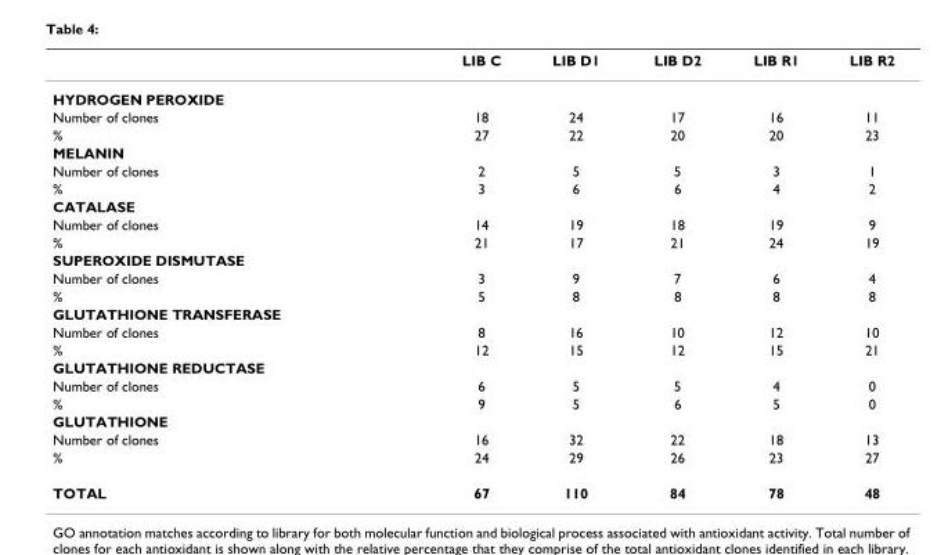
<table><thead><tr><td></td><td>LIB C</td><td>LIB D1</td><td>LIB D2</td><td>LIB R1</td><td>LIB R2</td></tr></thead><tbody><tr><td colspan="6">HYDROGEN PEROXIDE</td></tr><tr><td>Number of clones</td><td>18</td><td>24</td><td>17</td><td>16</td><td>11</td></tr><tr><td>%</td><td>27</td><td>22</td><td>20</td><td>20</td><td>23</td></tr><tr><td colspan="6">MELANIN</td></tr><tr><td>Number of clones</td><td>2</td><td>5</td><td>5</td><td>3</td><td>1</td></tr><tr><td>%</td><td>3</td><td>6</td><td>6</td><td>4</td><td>2</td></tr><tr><td colspan="6">CATALASE</td></tr><tr><td>Number of clones</td><td>14</td><td>19</td><td>18</td><td>19</td><td>9</td></tr><tr><td>%</td><td>21</td><td>17</td><td>21</td><td>24</td><td>19</td></tr><tr><td colspan="6">SUPEROXIDE DISMUTASE</td></tr><tr><td>Number of clones</td><td>3</td><td>9</td><td>7</td><td>6</td><td>4</td></tr><tr><td>%</td><td>5</td><td>8</td><td>8</td><td>8</td><td>8</td></tr><tr><td colspan="6">GLUTATHIONE TRANSFERASE</td></tr><tr><td>Number of clones</td><td>8</td><td>16</td><td>10</td><td>12</td><td>10</td></tr><tr><td>%</td><td>12</td><td>15</td><td>12</td><td>15</td><td>21</td></tr><tr><td colspan="6">GLUTATHIONE REDUCTASE</td></tr><tr><td>Number of clones</td><td>6</td><td>5</td><td>5</td><td>4</td><td>0</td></tr><tr><td>%</td><td>9</td><td>5</td><td>6</td><td>5</td><td>0</td></tr><tr><td colspan="6">GLUTATHIONE</td></tr><tr><td>Number of clones</td><td>16</td><td>32</td><td>22</td><td>18</td><td>13</td></tr><tr><td>%</td><td>24</td><td>29</td><td>26</td><td>23</td><td>27</td></tr><tr><td>TOTAL</td><td>67</td><td>110</td><td>84</td><td>78</td><td>48</td></tr></tbody></table>